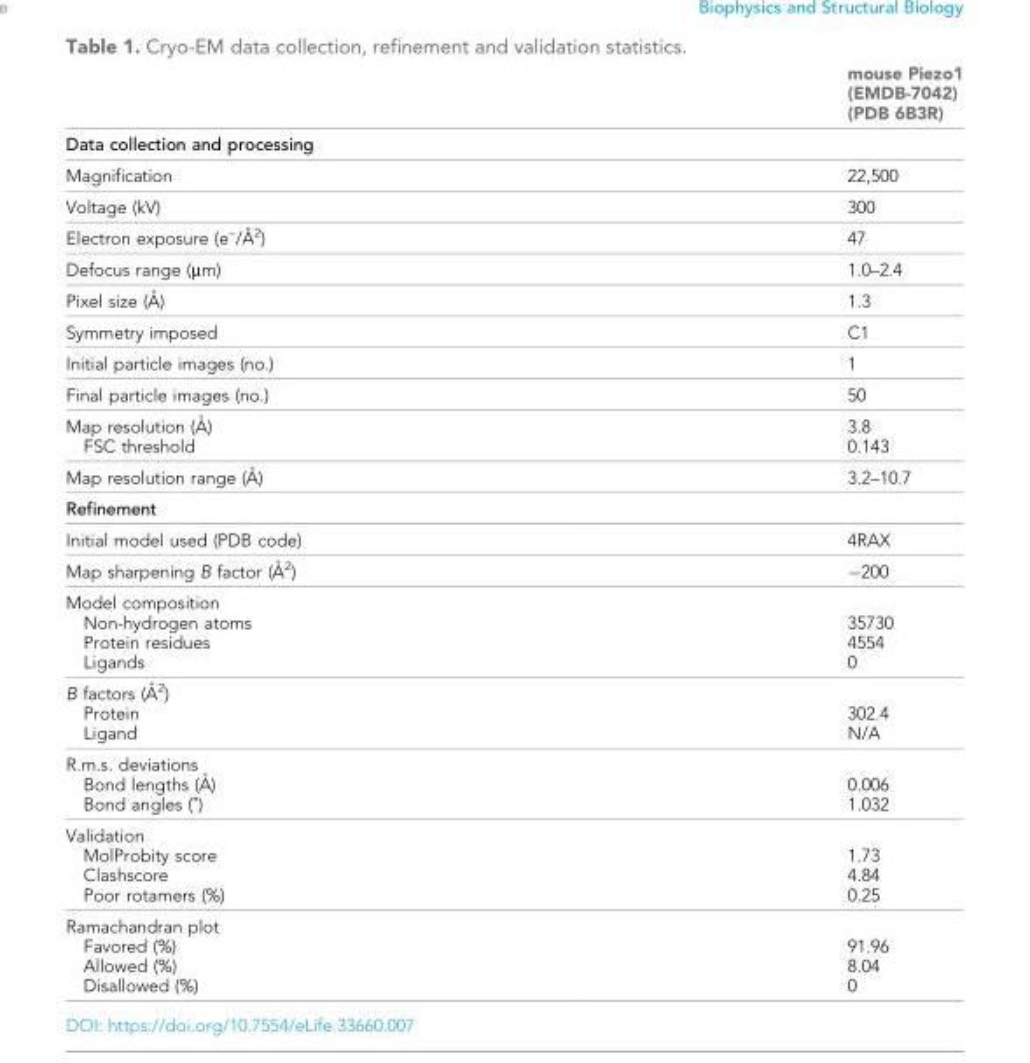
<table><thead><tr><td></td><td>mouse Piezo1 (EMDB-7042) (PDB 6B3R)</td></tr></thead><tbody><tr><td colspan="2">Data collection and processing</td></tr><tr><td>Magnification</td><td>22,500</td></tr><tr><td>Voltage (kV)</td><td>300</td></tr><tr><td>Electron exposure (e–/A˚ 2)</td><td>47</td></tr><tr><td>Defocus range (μm)</td><td>1.0–2.4</td></tr><tr><td>Pixel size (A˚ )</td><td>1.3</td></tr><tr><td>Symmetry imposed</td><td>C1</td></tr><tr><td>Initial particle images (no.)</td><td>1</td></tr><tr><td>Final particle images (no.)</td><td>50</td></tr><tr><td>Map resolution (A˚ ) FSC threshold</td><td>3.8 0.143</td></tr><tr><td>Map resolution range (A˚ )</td><td>3.2–10.7</td></tr><tr><td colspan="2">Refinement</td></tr><tr><td>Initial model used (PDB code)</td><td>4RAX</td></tr><tr><td>Map sharpening B factor (A˚ 2)</td><td>−200</td></tr><tr><td>Model composition Non-hydrogen atoms Protein residues Ligands</td><td>35730 4554 0</td></tr><tr><td>B factors (A˚ 2) Protein Ligand</td><td>302.4 N/A</td></tr><tr><td>R.m.s. deviations Bond lengths (A˚ ) Bond angles (˚)</td><td>0.006 1.032</td></tr><tr><td>Validation MolProbity score Clashscore Poor rotamers (%)</td><td>1.73 4.84 0.25</td></tr><tr><td>Ramachandran plot Favored (%) Allowed (%) Disallowed (%)</td><td>91.96 8.04 0</td></tr></tbody></table>